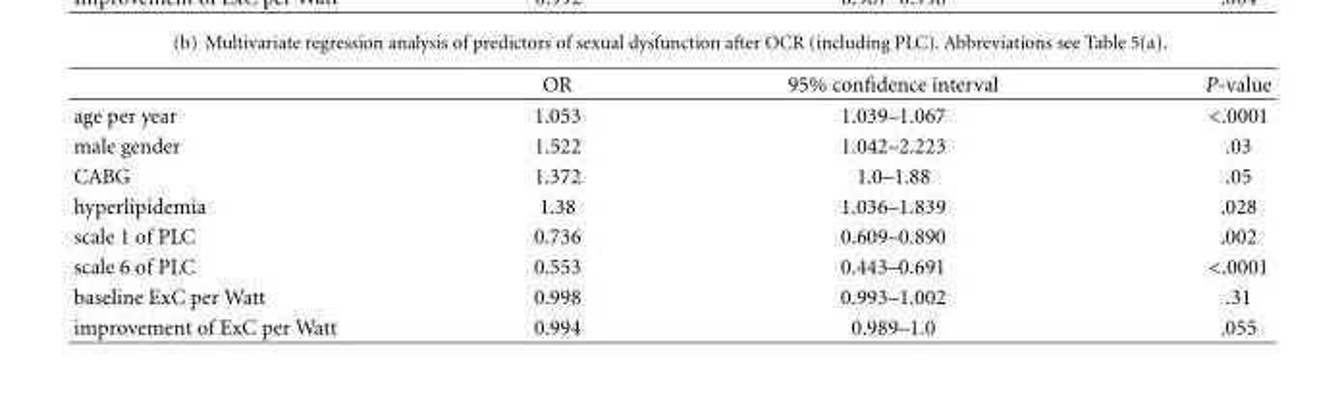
<table><thead><tr><td></td><td>OR</td><td>95% confidence interval</td><td>P-value</td></tr></thead><tbody><tr><td>age per year</td><td>1.053</td><td>1.039–1.067</td><td>&lt;.0001</td></tr><tr><td>male gender</td><td>1.522</td><td>1.042–2.223</td><td>.03</td></tr><tr><td>CABG</td><td>1.372</td><td>1.0–1.88</td><td>.05</td></tr><tr><td>hyperlipidemia</td><td>1.38</td><td>1.036–1.839</td><td>.028</td></tr><tr><td>scale 1 of PLC</td><td>0.736</td><td>0.609–0.890</td><td>.002</td></tr><tr><td>scale 6 of PLC</td><td>0.553</td><td>0.443–0.691</td><td>&lt;.0001</td></tr><tr><td>baseline ExC per Watt</td><td>0.998</td><td>0.993–1.002</td><td>.31</td></tr><tr><td>improvement of ExC per Watt</td><td>0.994</td><td>0.989–1.0</td><td>.055</td></tr></tbody></table>